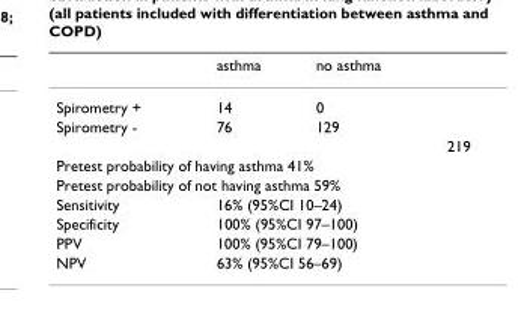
<table><thead><tr><td></td><td>asthma</td><td>no asthma</td><td></td></tr></thead><tbody><tr><td>Spirometry +</td><td>14</td><td>0</td><td></td></tr><tr><td rowspan="2">Spirometry -</td><td>76</td><td>129</td><td></td></tr><tr><td></td><td></td><td>219</td></tr><tr><td colspan="4">Pretest probability of having asthma 41%</td></tr><tr><td colspan="4">Pretest probability of not having asthma 59%</td></tr><tr><td>Sensitivity</td><td colspan="3">16% (95%CI 10–24)</td></tr><tr><td>Specificity</td><td colspan="3">100% (95%CI 97–100)</td></tr><tr><td>PPV</td><td colspan="3">100% (95%CI 79–100)</td></tr><tr><td>NPV</td><td colspan="3">63% (95%CI 56–69)</td></tr></tbody></table>